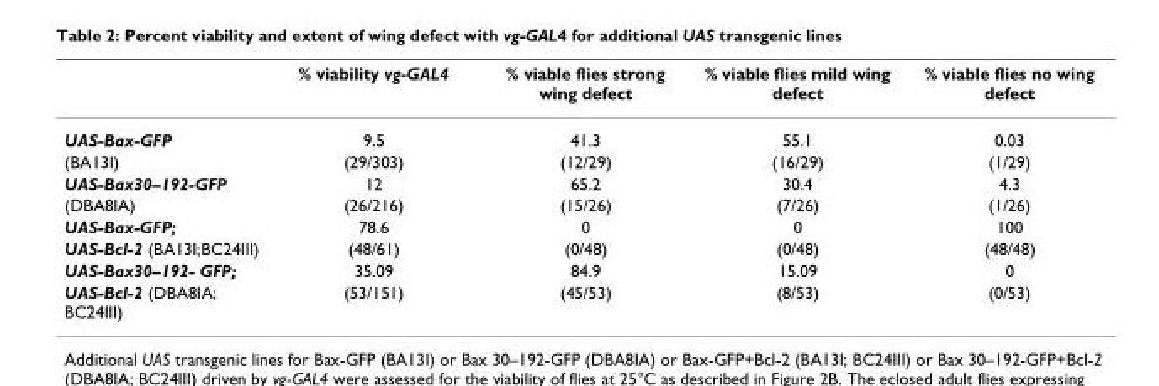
<table><thead><tr><td></td><td>% viability vg-GAL4</td><td>% viable flies strong wing defect</td><td>% viable flies mild wing defect</td><td>% viable flies no wing defect</td></tr></thead><tbody><tr><td>UAS-Bax-GFP</td><td>9.5</td><td>41.3</td><td>55.1</td><td>0.03</td></tr><tr><td>(BA13I)</td><td>(29/303)</td><td>(12/29)</td><td>(16/29)</td><td>(1/29)</td></tr><tr><td>UAS-Bax30–192-GFP</td><td>12</td><td>65.2</td><td>30.4</td><td>4.3</td></tr><tr><td>(DBA8IA)</td><td>(26/216)</td><td>(15/26)</td><td>(7/26)</td><td>(1/26)</td></tr><tr><td>UAS-Bax-GFP;</td><td>78.6</td><td>0</td><td>0</td><td>100</td></tr><tr><td>UAS-Bcl-2 (BA13I;BC24III)</td><td>(48/61)</td><td>(0/48)</td><td>(0/48)</td><td>(48/48)</td></tr><tr><td>UAS-Bax30–192- GFP;</td><td>35.09</td><td>84.9</td><td>15.09</td><td>0</td></tr><tr><td>UAS-Bcl-2 (DBA8IA; BC24III)</td><td>(53/151)</td><td>(45/53)</td><td>(8/53)</td><td>(0/53)</td></tr></tbody></table>